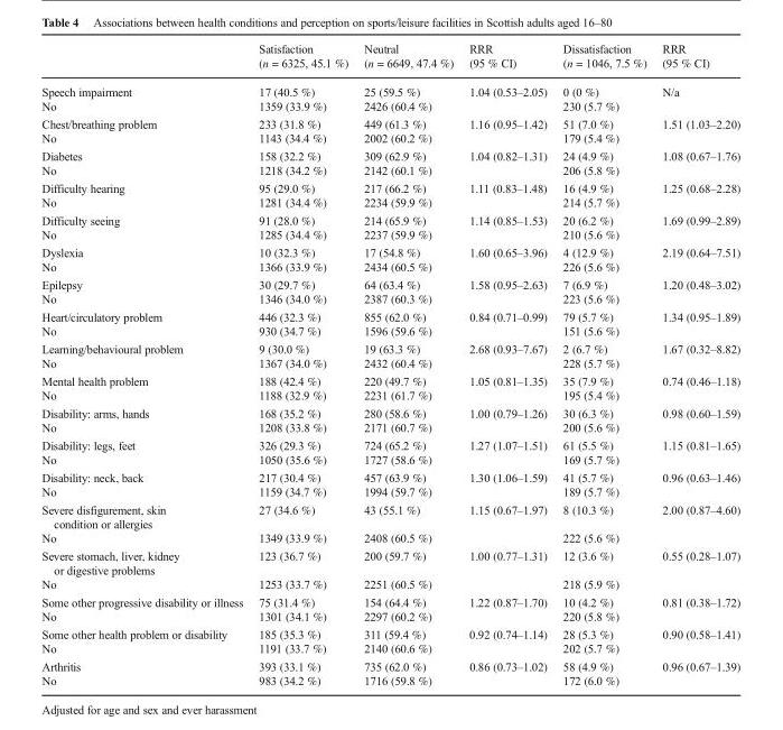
<table><thead><tr><td></td><td>Satisfaction (n = 6325, 45.1 %)</td><td>Neutral (n = 6649, 47.4 %)</td><td>RRR (95 % CI)</td><td>Dissatisfaction (n = 1046, 7.5 %)</td><td>RRR (95 % CI)</td></tr></thead><tbody><tr><td>Speech impairment</td><td>17 (40.5 %)</td><td>25 (59.5 %)</td><td rowspan="2">1.04 (0.53–2.05)</td><td>0 (0 %)</td><td rowspan="2">N/a</td></tr><tr><td>No</td><td>1359 (33.9 %)</td><td>2426 (60.4 %)</td><td>230 (5.7 %)</td></tr><tr><td>Chest/breathing problem</td><td>233 (31.8 %)</td><td>449 (61.3 %)</td><td rowspan="2">1.16 (0.95–1.42)</td><td>51 (7.0 %)</td><td rowspan="2">1.51 (1.03–2.20)</td></tr><tr><td>No</td><td>1143 (34.4 %)</td><td>2002 (60.2 %)</td><td>179 (5.4 %)</td></tr><tr><td>Diabetes</td><td>158 (32.2 %)</td><td>309 (62.9 %)</td><td rowspan="2">1.04 (0.82–1.31)</td><td>24 (4.9 %)</td><td rowspan="2">1.08 (0.67–1.76)</td></tr><tr><td>No</td><td>1218 (34.2 %)</td><td>2142 (60.1 %)</td><td>206 (5.8 %)</td></tr><tr><td>Difficulty hearing</td><td>95 (29.0 %)</td><td>217 (66.2 %)</td><td rowspan="2">1.11 (0.83–1.48)</td><td>16 (4.9 %)</td><td rowspan="2">1.25 (0.68–2.28)</td></tr><tr><td>No</td><td>1281 (34.4 %)</td><td>2234 (59.9 %)</td><td>214 (5.7 %)</td></tr><tr><td>Difficulty seeing</td><td>91 (28.0 %)</td><td>214 (65.9 %)</td><td rowspan="2">1.14 (0.85–1.53)</td><td>20 (6.2 %)</td><td rowspan="2">1.69 (0.99–2.89)</td></tr><tr><td>No</td><td>1285 (34.4 %)</td><td>2237 (59.9 %)</td><td>210 (5.6 %)</td></tr><tr><td>Dyslexia</td><td>10 (32.3 %)</td><td>17 (54.8 %)</td><td rowspan="2">1.60 (0.65–3.96)</td><td>4 (12.9 %)</td><td rowspan="2">2.19 (0.64–7.51)</td></tr><tr><td>No</td><td>1366 (33.9 %)</td><td>2434 (60.5 %)</td><td>226 (5.6 %)</td></tr><tr><td>Epilepsy</td><td>30 (29.7 %)</td><td>64 (63.4 %)</td><td rowspan="2">1.58 (0.95–2.63)</td><td>7 (6.9 %)</td><td rowspan="2">1.20 (0.48–3.02)</td></tr><tr><td>No</td><td>1346 (34.0 %)</td><td>2387 (60.3 %)</td><td>223 (5.6 %)</td></tr><tr><td>Heart/circulatory problem</td><td>446 (32.3 %)</td><td>855 (62.0 %)</td><td rowspan="2">0.84 (0.71–0.99)</td><td>79 (5.7 %)</td><td rowspan="2">1.34 (0.95–1.89)</td></tr><tr><td>No</td><td>930 (34.7 %)</td><td>1596 (59.6 %)</td><td>151 (5.6 %)</td></tr><tr><td>Learning/behavioural problem</td><td>9 (30.0 %)</td><td>19 (63.3 %)</td><td rowspan="2">2.68 (0.93–7.67)</td><td>2 (6.7 %)</td><td rowspan="2">1.67 (0.32–8.82)</td></tr><tr><td>No</td><td>1367 (34.0 %)</td><td>2432 (60.4 %)</td><td>228 (5.7 %)</td></tr><tr><td>Mental health problem</td><td>188 (42.4 %)</td><td>220 (49.7 %)</td><td rowspan="2">1.05 (0.81–1.35)</td><td>35 (7.9 %)</td><td rowspan="2">0.74 (0.46–1.18)</td></tr><tr><td>No</td><td>1188 (32.9 %)</td><td>2231 (61.7 %)</td><td>195 (5.4 %)</td></tr><tr><td>Disability: arms, hands</td><td>168 (35.2 %)</td><td>280 (58.6 %)</td><td rowspan="2">1.00 (0.79–1.26)</td><td>30 (6.3 %)</td><td rowspan="2">0.98 (0.60–1.59)</td></tr><tr><td>No</td><td>1208 (33.8 %)</td><td>2171 (60.7 %)</td><td>200 (5.6 %)</td></tr><tr><td>Disability: legs, feet</td><td>326 (29.3 %)</td><td>724 (65.2 %)</td><td rowspan="2">1.27 (1.07–1.51)</td><td>61 (5.5 %)</td><td rowspan="2">1.15 (0.81–1.65)</td></tr><tr><td>No</td><td>1050 (35.6 %)</td><td>1727 (58.6 %)</td><td>169 (5.7 %)</td></tr><tr><td>Disability: neck, back</td><td>217 (30.4 %)</td><td>457 (63.9 %)</td><td rowspan="2">1.30 (1.06–1.59)</td><td>41 (5.7 %)</td><td rowspan="2">0.96 (0.63–1.46)</td></tr><tr><td>No</td><td>1159 (34.7 %)</td><td>1994 (59.7 %)</td><td>189 (5.7 %)</td></tr><tr><td>Severe disfigurement, skin condition or allergies</td><td>27 (34.6 %)</td><td>43 (55.1 %)</td><td rowspan="2">1.15 (0.67–1.97)</td><td>8 (10.3 %)</td><td rowspan="2">2.00 (0.87–4.60)</td></tr><tr><td>No</td><td>1349 (33.9 %)</td><td>2408 (60.5 %)</td><td>222 (5.6 %)</td></tr><tr><td>Severe stomach, liver, kidney or digestive problems</td><td>123 (36.7 %)</td><td>200 (59.7 %)</td><td rowspan="2">1.00 (0.77–1.31)</td><td>12 (3.6 %)</td><td rowspan="2">0.55 (0.28–1.07)</td></tr><tr><td>No</td><td>1253 (33.7 %)</td><td>2251 (60.5 %)</td><td>218 (5.9 %)</td></tr><tr><td>Some other progressive disability or illness</td><td>75 (31.4 %)</td><td>154 (64.4 %)</td><td rowspan="2">1.22 (0.87–1.70)</td><td>10 (4.2 %)</td><td rowspan="2">0.81 (0.38–1.72)</td></tr><tr><td>No</td><td>1301 (34.1 %)</td><td>2297 (60.2 %)</td><td>220 (5.8 %)</td></tr><tr><td>Some other health problem or disability</td><td>185 (35.3 %)</td><td>311 (59.4 %)</td><td rowspan="2">0.92 (0.74–1.14)</td><td>28 (5.3 %)</td><td rowspan="2">0.90 (0.58–1.41)</td></tr><tr><td>No</td><td>1191 (33.7 %)</td><td>2140 (60.6 %)</td><td>202 (5.7 %)</td></tr><tr><td>Arthritis</td><td>393 (33.1 %)</td><td>735 (62.0 %)</td><td rowspan="2">0.86 (0.73–1.02)</td><td>58 (4.9 %)</td><td rowspan="2">0.96 (0.67–1.39)</td></tr><tr><td>No</td><td>983 (34.2 %)</td><td>1716 (59.8 %)</td><td>172 (6.0 %)</td></tr></tbody></table>